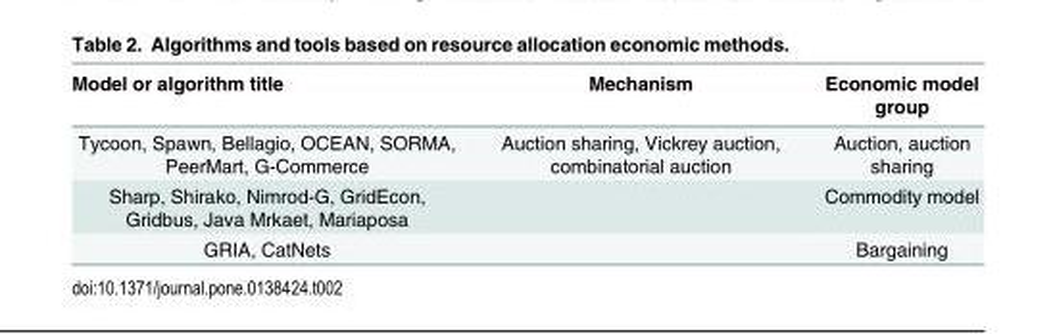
<table><thead><tr><td>Model or algorithm title</td><td>Mechanism</td><td>Economic model group</td></tr></thead><tbody><tr><td>Tycoon, Spawn, Bellagio, OCEAN, SORMA, PeerMart, G-Commerce</td><td>Auction sharing, Vickrey auction, combinatorial auction</td><td>Auction, auction sharing</td></tr><tr><td>Sharp, Shirako, Nimrod-G, GridEcon, Gridbus, Java Mrkaet, Mariaposa</td><td></td><td>Commodity model</td></tr><tr><td>GRIA, CatNets</td><td></td><td>Bargaining</td></tr></tbody></table>